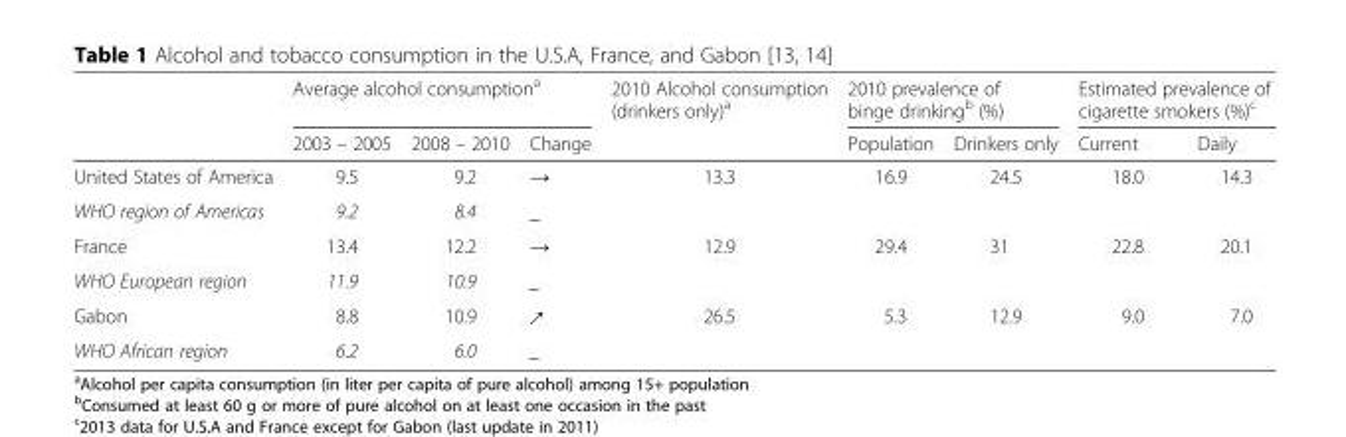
<table><thead><tr><td rowspan="2"></td><td colspan="3">Average alcohol consumption<sup>a</sup></td><td rowspan="2">2010 Alcohol consumption (drinkers only)<sup>a</sup></td><td colspan="2">2010 prevalence of binge drinking<sup>b</sup> (%)</td><td colspan="2">Estimated prevalence of cigarette smokers (%)<sup>c</sup></td></tr><tr><td>2003 – 2005</td><td>2008 – 2010</td><td>Change</td><td>Population</td><td>Drinkers only</td><td>Current</td><td>Daily</td></tr></thead><tbody><tr><td>United States of America</td><td>9.5</td><td>9.2</td><td>→</td><td>13.3</td><td>16.9</td><td>24.5</td><td>18.0</td><td>14.3</td></tr><tr><td>WHO region of Americas</td><td>9.2</td><td>8.4</td><td>_</td><td></td><td></td><td></td><td></td><td></td></tr><tr><td>France</td><td>13.4</td><td>12.2</td><td>→</td><td>12.9</td><td>29.4</td><td>31</td><td>22.8</td><td>20.1</td></tr><tr><td>WHO European region</td><td>11.9</td><td>10.9</td><td>_</td><td></td><td></td><td></td><td></td><td></td></tr><tr><td>Gabon</td><td>8.8</td><td>10.9</td><td>↗</td><td>26.5</td><td>5.3</td><td>12.9</td><td>9.0</td><td>7.0</td></tr><tr><td>WHO African region</td><td>6.2</td><td>6.0</td><td>_</td><td></td><td></td><td></td><td></td><td></td></tr></tbody></table>